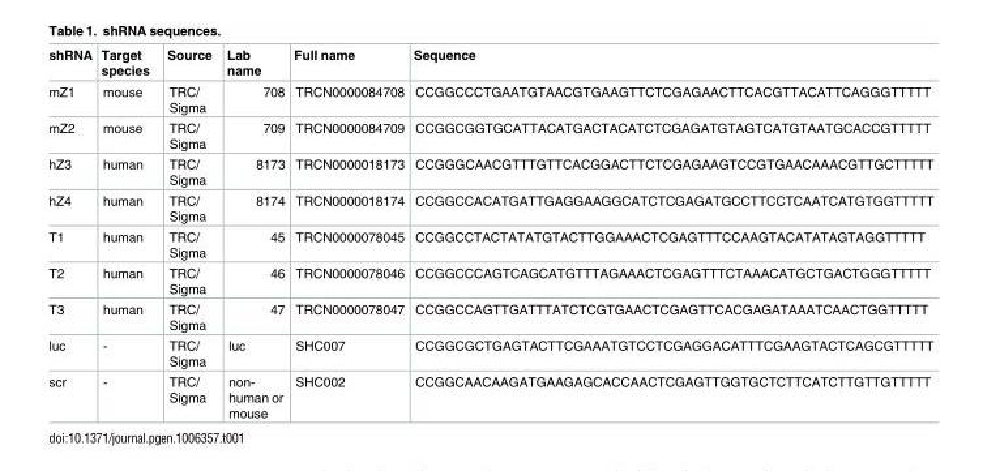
<table><thead><tr><td>shRNA</td><td>Target species</td><td>Source</td><td>Lab name</td><td>Full name</td><td>Sequence</td></tr></thead><tbody><tr><td>mZ1</td><td>mouse</td><td>TRC/ Sigma</td><td>708</td><td>TRCN0000084708</td><td>CCGGCCCTGAATGTAACGTGAAGTTCTCGAGAACTTCACGTTACATTCAGGGTTTTT</td></tr><tr><td>mZ2</td><td>mouse</td><td>TRC/ Sigma</td><td>709</td><td>TRCN0000084709</td><td>CCGGCGGTGCATTACATGACTACATCTCGAGATGTAGTCATGTAATGCACCGTTTTT</td></tr><tr><td>hZ3</td><td>human</td><td>TRC/ Sigma</td><td>8173</td><td>TRCN0000018173</td><td>CCGGGCAACGTTTGTTCACGGACTTCTCGAGAAGTCCGTGAACAAACGTTGCTTTTT</td></tr><tr><td>hZ4</td><td>human</td><td>TRC/ Sigma</td><td>8174</td><td>TRCN0000018174</td><td>CCGGCCACATGATTGAGGAAGGCATCTCGAGATGCCTTCCTCAATCATGTGGTTTTT</td></tr><tr><td>T1</td><td>human</td><td>TRC/ Sigma</td><td>45</td><td>TRCN0000078045</td><td>CCGGCCTACTATATGTACTTGGAAACTCGAGTTTCCAAGTACATATAGTAGGTTTTT</td></tr><tr><td>T2</td><td>human</td><td>TRC/ Sigma</td><td>46</td><td>TRCN0000078046</td><td>CCGGCCCAGTCAGCATGTTTAGAAACTCGAGTTTCTAAACATGCTGACTGGGTTTTT</td></tr><tr><td>T3</td><td>human</td><td>TRC/ Sigma</td><td>47</td><td>TRCN0000078047</td><td>CCGGCCAGTTGATTTATCTCGTGAACTCGAGTTCACGAGATAAATCAACTGGTTTTT</td></tr><tr><td>luc</td><td>-</td><td>TRC/ Sigma</td><td>luc</td><td>SHC007</td><td>CCGGCGCTGAGTACTTCGAAATGTCCTCGAGGACATTTCGAAGTACTCAGCGTTTTT</td></tr><tr><td>scr</td><td>-</td><td>TRC/ Sigma</td><td>non- human or mouse</td><td>SHC002</td><td>CCGGCAACAAGATGAAGAGCACCAACTCGAGTTGGTGCTCTTCATCTTGTTGTTTTT</td></tr></tbody></table>